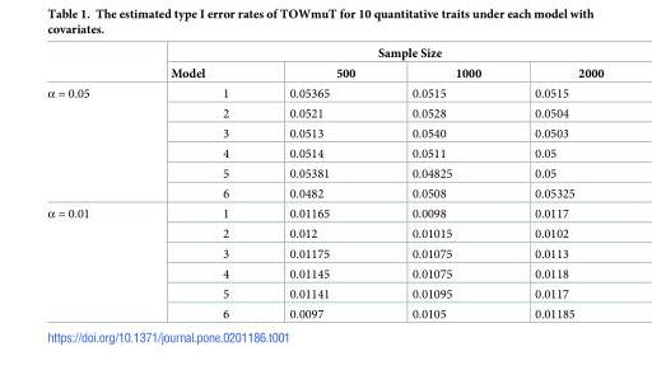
<table><thead><tr><td rowspan="2"></td><td colspan="4">Sample Size</td></tr><tr><td>Model</td><td>500</td><td>1000</td><td>2000</td></tr></thead><tbody><tr><td rowspan="6">α = 0.05</td><td>1</td><td>0.05365</td><td>0.0515</td><td>0.0515</td></tr><tr><td>2</td><td>0.0521</td><td>0.0528</td><td>0.0504</td></tr><tr><td>3</td><td>0.0513</td><td>0.0540</td><td>0.0503</td></tr><tr><td>4</td><td>0.0514</td><td>0.0511</td><td>0.05</td></tr><tr><td>5</td><td>0.05381</td><td>0.04825</td><td>0.05</td></tr><tr><td>6</td><td>0.0482</td><td>0.0508</td><td>0.05325</td></tr><tr><td rowspan="6">α = 0.01</td><td>1</td><td>0.01165</td><td>0.0098</td><td>0.0117</td></tr><tr><td>2</td><td>0.012</td><td>0.01015</td><td>0.0102</td></tr><tr><td>3</td><td>0.01175</td><td>0.01075</td><td>0.0113</td></tr><tr><td>4</td><td>0.01145</td><td>0.01075</td><td>0.0118</td></tr><tr><td>5</td><td>0.01141</td><td>0.01095</td><td>0.0117</td></tr><tr><td>6</td><td>0.0097</td><td>0.0105</td><td>0.01185</td></tr></tbody></table>